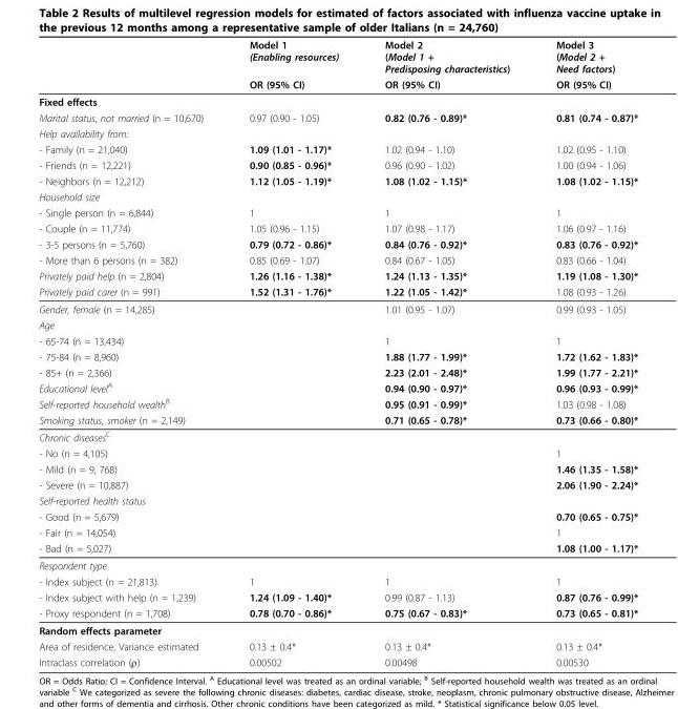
<table><thead><tr><td rowspan="2"></td><td rowspan="2">Model 1 (Enabling resources) OR (95% CI)</td><td rowspan="2">Model 2 (Model 1 + Predisposing characteristics) OR (95% CI)</td><td rowspan="2">Model 3 (Model 2 + Need factors) OR (95% CI)</td></tr><tr></tr></thead><tbody><tr><td colspan="4">Fixed effects</td></tr><tr><td>Marital status, not married (n = 10,670)</td><td>0.97 (0.90 - 1.05)</td><td>0.82 (0.76 - 0.89)*</td><td>0.81 (0.74 - 0.87)*</td></tr><tr><td colspan="4">Help availability from:</td></tr><tr><td>- Family (n = 21,040)</td><td>1.09 (1.01 - 1.17)*</td><td>1.02 (0.94 - 1.10)</td><td>1.02 (0.95 - 1.10)</td></tr><tr><td>- Friends (n = 12,221)</td><td>0.90 (0.85 - 0.96)*</td><td>0.96 (0.90 - 1.02)</td><td>1.00 (0.94 - 1.06)</td></tr><tr><td>- Neighbors (n = 12,212)</td><td>1.12 (1.05 - 1.19)*</td><td>1.08 (1.02 - 1.15)*</td><td>1.08 (1.02 - 1.15)*</td></tr><tr><td colspan="4">Household size</td></tr><tr><td>- Single person (n = 6,844)</td><td>1</td><td>1</td><td>1</td></tr><tr><td>- Couple (n = 11,774)</td><td>1.05 (0.96 - 1.15)</td><td>1.07 (0.98 - 1.17)</td><td>1.06 (0.97 - 1.16)</td></tr><tr><td>- 3-5 persons (n = 5,760)</td><td>0.79 (0.72 - 0.86)*</td><td>0.84 (0.76 - 0.92)*</td><td>0.83 (0.76 - 0.92)*</td></tr><tr><td>- More than 6 persons (n = 382)</td><td>0.85 (0.69 - 1.07)</td><td>0.84 (0.67 - 1.05)</td><td>0.83 (0.66 - 1.04)</td></tr><tr><td>Privately paid help (n = 2,804)</td><td>1.26 (1.16 - 1.38)*</td><td>1.24 (1.13 - 1.35)*</td><td>1.19 (1.08 - 1.30)*</td></tr><tr><td>Privately paid carer (n = 991)</td><td>1.52 (1.31 - 1.76)*</td><td>1.22 (1.05 - 1.42)*</td><td>1.08 (0.93 - 1.26)</td></tr><tr><td>Gender, female (n = 14,285)</td><td></td><td>1.01 (0.95 - 1.07)</td><td>0.99 (0.93 - 1.05)</td></tr><tr><td colspan="4">Age</td></tr><tr><td>- 65-74 (n = 13,434)</td><td></td><td>1</td><td>1</td></tr><tr><td>- 75-84 (n = 8,960)</td><td></td><td>1.88 (1.77 - 1.99)*</td><td>1.72 (1.62 - 1.83)*</td></tr><tr><td>- 85+ (n = 2,366)</td><td></td><td>2.23 (2.01 - 2.48)*</td><td>1.99 (1.77 - 2.21)*</td></tr><tr><td>Educational level<sup>A</sup></td><td></td><td>0.94 (0.90 - 0.97)*</td><td>0.96 (0.93 - 0.99)*</td></tr><tr><td>Self-reported household wealth<sup>B</sup></td><td></td><td>0.95 (0.91 - 0.99)*</td><td>1.03 (0.98 - 1.08)</td></tr><tr><td>Smoking status, smoker (n = 2,149)</td><td></td><td>0.71 (0.65 - 0.78)*</td><td>0.73 (0.66 - 0.80)*</td></tr><tr><td colspan="4">Chronic diseases<sup>C</sup></td></tr><tr><td>- No (n = 4,105)</td><td></td><td></td><td>1</td></tr><tr><td>- Mild (n = 9, 768)</td><td></td><td></td><td>1.46 (1.35 - 1.58)*</td></tr><tr><td>- Severe (n = 10,887)</td><td></td><td></td><td>2.06 (1.90 - 2.24)*</td></tr><tr><td colspan="4">Self-reported health status</td></tr><tr><td>- Good (n = 5,679)</td><td></td><td></td><td>0.70 (0.65 - 0.75)*</td></tr><tr><td>- Fair (n = 14,054)</td><td></td><td></td><td>1</td></tr><tr><td>- Bad (n = 5,027)</td><td></td><td></td><td>1.08 (1.00 - 1.17)*</td></tr><tr><td colspan="4">Respondent type</td></tr><tr><td>- Index subject (n = 21,813)</td><td>1</td><td>1</td><td>1</td></tr><tr><td>- Index subject with help (n = 1,239)</td><td>1.24 (1.09 - 1.40)*</td><td>0.99 (0.87 - 1.13)</td><td>0.87 (0.76 - 0.99)*</td></tr><tr><td>- Proxy respondent (n = 1,708)</td><td>0.78 (0.70 - 0.86)*</td><td>0.75 (0.67 - 0.83)*</td><td>0.73 (0.65 - 0.81)*</td></tr><tr><td colspan="4">Random effects parameter</td></tr><tr><td>Area of residence, Variance estimated</td><td>0.13 ± 0.4*</td><td>0.13 ± 0.4*</td><td>0.13 ± 0.4*</td></tr><tr><td>Intraclass correlation (ρ)</td><td>0.00502</td><td>0.00498</td><td>0.00530</td></tr></tbody></table>